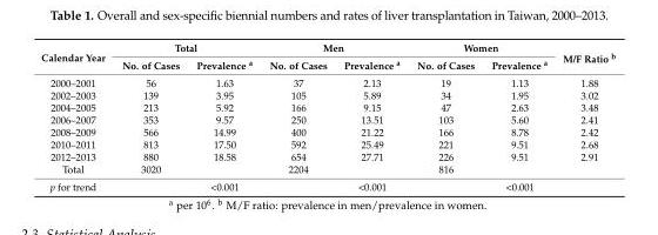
<table><thead><tr><td rowspan="2">Calendar Year</td><td colspan="2">Total</td><td colspan="2">Men</td><td colspan="2">Women</td><td rowspan="2">M/F Ratio <sup>b</sup></td></tr><tr><td>No. of Cases</td><td>Prevalence <sup>a</sup></td><td>No. of Cases</td><td>Prevalence <sup>a</sup></td><td>No. of Cases</td><td>Prevalence <sup>a</sup></td></tr></thead><tbody><tr><td>2000–2001</td><td>56</td><td>1.63</td><td>37</td><td>2.13</td><td>19</td><td>1.13</td><td>1.88</td></tr><tr><td>2002–2003</td><td>139</td><td>3.95</td><td>105</td><td>5.89</td><td>34</td><td>1.95</td><td>3.02</td></tr><tr><td>2004–2005</td><td>213</td><td>5.92</td><td>166</td><td>9.15</td><td>47</td><td>2.63</td><td>3.48</td></tr><tr><td>2006–2007</td><td>353</td><td>9.57</td><td>250</td><td>13.51</td><td>103</td><td>5.60</td><td>2.41</td></tr><tr><td>2008–2009</td><td>566</td><td>14.99</td><td>400</td><td>21.22</td><td>166</td><td>8.78</td><td>2.42</td></tr><tr><td>2010–2011</td><td>813</td><td>17.50</td><td>592</td><td>25.49</td><td>221</td><td>9.51</td><td>2.68</td></tr><tr><td>2012–2013</td><td>880</td><td>18.58</td><td>654</td><td>27.71</td><td>226</td><td>9.51</td><td>2.91</td></tr><tr><td>Total</td><td>3020</td><td></td><td>2204</td><td></td><td>816</td><td></td><td></td></tr><tr><td>p for trend</td><td></td><td>&lt;0.001</td><td></td><td>&lt;0.001</td><td></td><td>&lt;0.001</td><td></td></tr></tbody></table>